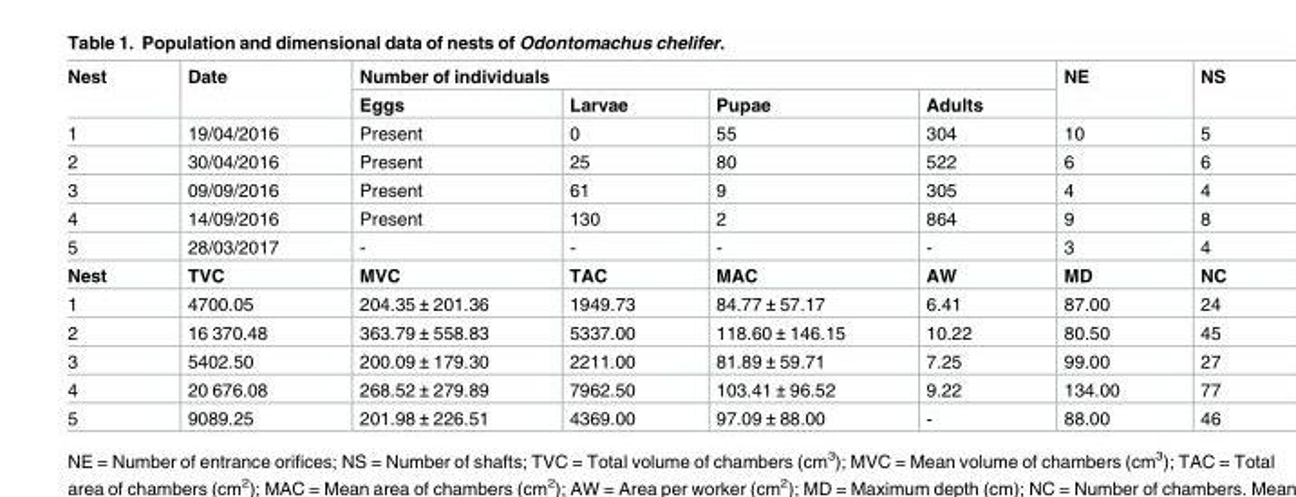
<table><tbody><tr><td rowspan="2">Nest</td><td rowspan="2">Date</td><td colspan="4">Number of individuals</td><td rowspan="2">NE</td><td rowspan="2">NS</td></tr><tr><td>Eggs</td><td>Larvae</td><td>Pupae</td><td>Adults</td></tr><tr><td>1</td><td>19/04/2016</td><td>Present</td><td>0</td><td>55</td><td>304</td><td>10</td><td>5</td></tr><tr><td>2</td><td>30/04/2016</td><td>Present</td><td>25</td><td>80</td><td>522</td><td>6</td><td>6</td></tr><tr><td>3</td><td>09/09/2016</td><td>Present</td><td>61</td><td>9</td><td>305</td><td>4</td><td>4</td></tr><tr><td>4</td><td>14/09/2016</td><td>Present</td><td>130</td><td>2</td><td>864</td><td>9</td><td>8</td></tr><tr><td>5</td><td>28/03/2017</td><td>-</td><td>-</td><td>-</td><td>-</td><td>3</td><td>4</td></tr><tr><td>Nest</td><td>TVC</td><td>MVC</td><td>TAC</td><td>MAC</td><td>AW</td><td>MD</td><td>NC</td></tr><tr><td>1</td><td>4700.05</td><td>204.35 ± 201.36</td><td>1949.73</td><td>84.77 ± 57.17</td><td>6.41</td><td>87.00</td><td>24</td></tr><tr><td>2</td><td>16 370.48</td><td>363.79 ± 558.83</td><td>5337.00</td><td>118.60 ± 146.15</td><td>10.22</td><td>80.50</td><td>45</td></tr><tr><td>3</td><td>5402.50</td><td>200.09 ± 179.30</td><td>2211.00</td><td>81.89 ± 59.71</td><td>7.25</td><td>99.00</td><td>27</td></tr><tr><td>4</td><td>20 676.08</td><td>268.52 ± 279.89</td><td>7962.50</td><td>103.41 ± 96.52</td><td>9.22</td><td>134.00</td><td>77</td></tr><tr><td>5</td><td>9089.25</td><td>201.98 ± 226.51</td><td>4369.00</td><td>97.09 ± 88.00</td><td>-</td><td>88.00</td><td>46</td></tr></tbody></table>